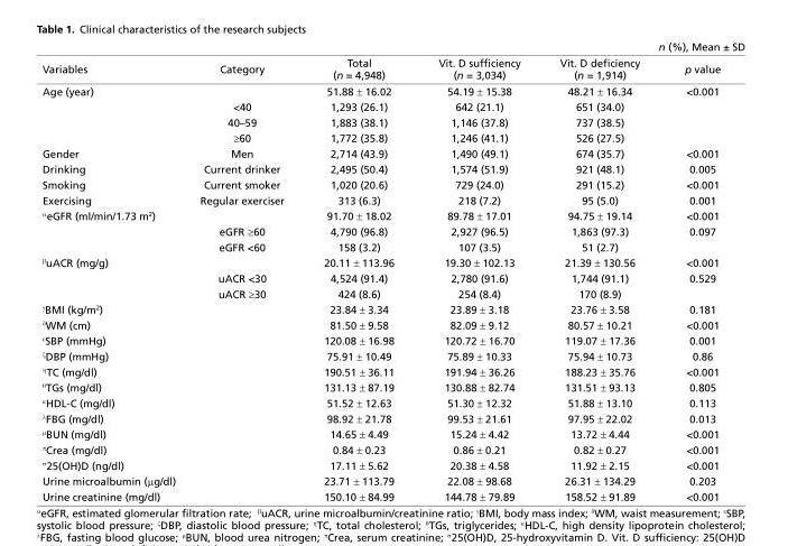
<table><thead><tr><td colspan="6">n (%), Mean ± SD</td></tr><tr><td>Variables</td><td>Category</td><td>Total (n = 4,948)</td><td>Vit. D sufficiency (n = 3,034)</td><td>Vit. D deficiency (n = 1,914)</td><td>p value</td></tr></thead><tbody><tr><td rowspan="4">Age (year)</td><td></td><td>51.88 ± 16.02</td><td>54.19 ± 15.38</td><td>48.21 ± 16.34</td><td>&lt;0.001</td></tr><tr><td>&lt;40</td><td>1,293 (26.1)</td><td>642 (21.1)</td><td>651 (34.0)</td><td></td></tr><tr><td>40–59</td><td>1,883 (38.1)</td><td>1,146 (37.8)</td><td>737 (38.5)</td><td></td></tr><tr><td>≥60</td><td>1,772 (35.8)</td><td>1,246 (41.1)</td><td>526 (27.5)</td><td></td></tr><tr><td>Gender</td><td>Men</td><td>2,714 (43.9)</td><td>1,490 (49.1)</td><td>674 (35.7)</td><td>&lt;0.001</td></tr><tr><td>Drinking</td><td>Current drinker</td><td>2,495 (50.4)</td><td>1,574 (51.9)</td><td>921 (48.1)</td><td>0.005</td></tr><tr><td>Smoking</td><td>Current smoker</td><td>1,020 (20.6)</td><td>729 (24.0)</td><td>291 (15.2)</td><td>&lt;0.001</td></tr><tr><td>Exercising</td><td>Regular exerciser</td><td>313 (6.3)</td><td>218 (7.2)</td><td>95 (5.0)</td><td>0.001</td></tr><tr><td rowspan="3"><sup>α</sup>eGFR (ml/min/1.73 m<sup>2</sup>)</td><td></td><td>91.70 ± 18.02</td><td>89.78 ± 17.01</td><td>94.75 ± 19.14</td><td>&lt;0.001</td></tr><tr><td>eGFR ≥60</td><td>4,790 (96.8)</td><td>2,927 (96.5)</td><td>1,863 (97.3)</td><td>0.097</td></tr><tr><td>eGFR &lt;60</td><td>158 (3.2)</td><td>107 (3.5)</td><td>51 (2.7)</td><td></td></tr><tr><td rowspan="3"><sup>β</sup>uACR (mg/g)</td><td></td><td>20.11 ± 113.96</td><td>19.30 ± 102.13</td><td>21.39 ± 130.56</td><td>&lt;0.001</td></tr><tr><td>uACR &lt;30</td><td>4,524 (91.4)</td><td>2,780 (91.6)</td><td>1,744 (91.1)</td><td>0.529</td></tr><tr><td>uACR ≥30</td><td>424 (8.6)</td><td>254 (8.4)</td><td>170 (8.9)</td><td></td></tr><tr><td><sup>γ</sup>BMI (kg/m<sup>2</sup>)</td><td></td><td>23.84 ± 3.34</td><td>23.89 ± 3.18</td><td>23.76 ± 3.58</td><td>0.181</td></tr><tr><td><sup>δ</sup>WM (cm)</td><td></td><td>81.50 ± 9.58</td><td>82.09 ± 9.12</td><td>80.57 ± 10.21</td><td>&lt;0.001</td></tr><tr><td><sup>ε</sup>SBP (mmHg)</td><td></td><td>120.08 ± 16.98</td><td>120.72 ± 16.70</td><td>119.07 ± 17.36</td><td>0.001</td></tr><tr><td><sup>ζ</sup>DBP (mmHg)</td><td></td><td>75.91 ± 10.49</td><td>75.89 ± 10.33</td><td>75.94 ± 10.73</td><td>0.86</td></tr><tr><td><sup>η</sup>TC (mg/dl)</td><td></td><td>190.51 ± 36.11</td><td>191.94 ± 36.26</td><td>188.23 ± 35.76</td><td>&lt;0.001</td></tr><tr><td><sup>θ</sup>TGs (mg/dl)</td><td></td><td>131.13 ± 87.19</td><td>130.88 ± 82.74</td><td>131.51 ± 93.13</td><td>0.805</td></tr><tr><td><sup>κ</sup>HDL-C (mg/dl)</td><td></td><td>51.52 ± 12.63</td><td>51.30 ± 12.32</td><td>51.88 ± 13.10</td><td>0.113</td></tr><tr><td><sup>λ</sup>FBG (mg/dl)</td><td></td><td>98.92 ± 21.78</td><td>99.53 ± 21.61</td><td>97.95 ± 22.02</td><td>0.013</td></tr><tr><td><sup>μ</sup>BUN (mg/dl)</td><td></td><td>14.65 ± 4.49</td><td>15.24 ± 4.42</td><td>13.72 ± 4.44</td><td>&lt;0.001</td></tr><tr><td><sup>π</sup>Crea (mg/dl)</td><td></td><td>0.84 ± 0.23</td><td>0.86 ± 0.21</td><td>0.82 ± 0.27</td><td>&lt;0.001</td></tr><tr><td><sup>σ</sup>25(OH)D (ng/dl)</td><td></td><td>17.11 ± 5.62</td><td>20.38 ± 4.58</td><td>11.92 ± 2.15</td><td>&lt;0.001</td></tr><tr><td>Urine microalbumin (μg/dl)</td><td></td><td>23.71 ± 113.79</td><td>22.08 ± 98.68</td><td>26.31 ± 134.29</td><td>0.203</td></tr><tr><td>Urine creatinine (mg/dl)</td><td></td><td>150.10 ± 84.99</td><td>144.78 ± 79.89</td><td>158.52 ± 91.89</td><td>&lt;0.001</td></tr></tbody></table>